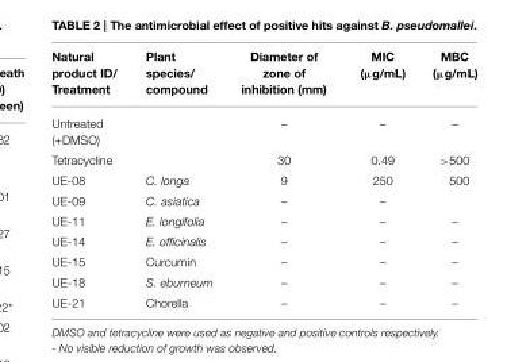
<table><thead><tr><td>Natural product ID/ Treatment</td><td>Plant species/ compound</td><td>Diameter of zone of inhibition (mm)</td><td>MIC (µg/mL)</td><td>MBC (µg/mL)</td></tr></thead><tbody><tr><td>Untreated (+DMSO)</td><td></td><td>–</td><td>–</td><td>–</td></tr><tr><td>Tetracycline</td><td></td><td>30</td><td>0.49</td><td>&gt;500</td></tr><tr><td>UE-08</td><td>C. longa</td><td>9</td><td>250</td><td>500</td></tr><tr><td>UE-09</td><td>C. asiatica</td><td>–</td><td>–</td><td></td></tr><tr><td>UE-11</td><td>E. longifolia</td><td>–</td><td>–</td><td>–</td></tr><tr><td>UE-14</td><td>E. officinalis</td><td>–</td><td>–</td><td>–</td></tr><tr><td>UE-15</td><td>Curcumin</td><td>–</td><td>–</td><td>–</td></tr><tr><td>UE-18</td><td>S. eburneum</td><td>–</td><td>–</td><td>–</td></tr><tr><td>UE-21</td><td>Chorella</td><td>–</td><td>–</td><td>–</td></tr></tbody></table>